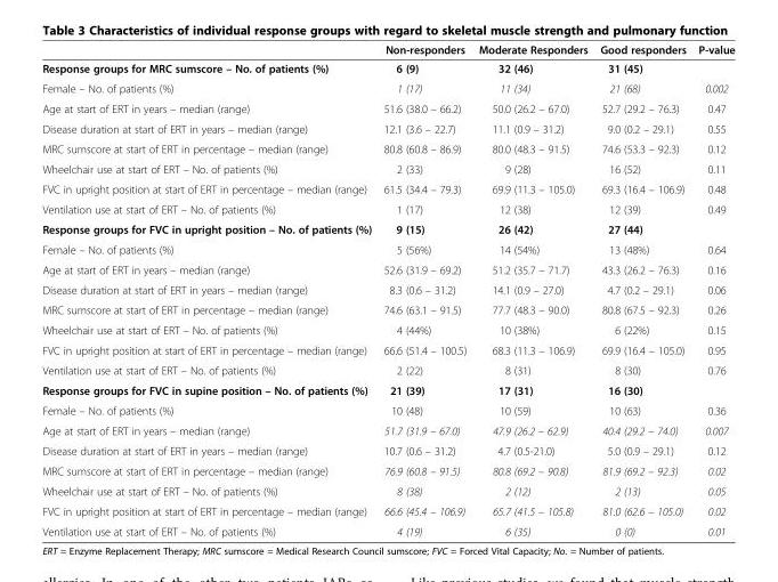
<table><thead><tr><td></td><td>Non-responders</td><td>Moderate Responders</td><td>Good responders</td><td>P-value</td></tr></thead><tbody><tr><td>Response groups for MRC sumscore – No. of patients (%)</td><td>6 (9)</td><td>32 (46)</td><td>31 (45)</td><td></td></tr><tr><td>Female – No. of patients (%)</td><td>1 (17)</td><td>11 (34)</td><td>21 (68)</td><td>0.002</td></tr><tr><td>Age at start of ERT in years – median (range)</td><td>51.6 (38.0 – 66.2)</td><td>50.0 (26.2 – 67.0)</td><td>52.7 (29.2 – 76.3)</td><td>0.47</td></tr><tr><td>Disease duration at start of ERT in years – median (range)</td><td>12.1 (3.6 – 22.7)</td><td>11.1 (0.9 – 31.2)</td><td>9.0 (0.2 – 29.1)</td><td>0.55</td></tr><tr><td>MRC sumscore at start of ERT in percentage – median (range)</td><td>80.8 (60.8 – 86.9)</td><td>80.0 (48.3 – 91.5)</td><td>74.6 (53.3 – 92.3)</td><td>0.12</td></tr><tr><td>Wheelchair use at start of ERT – No. of patients (%)</td><td>2 (33)</td><td>9 (28)</td><td>16 (52)</td><td>0.11</td></tr><tr><td>FVC in upright position at start of ERT in percentage – median (range)</td><td>61.5 (34.4 – 79.3)</td><td>69.9 (11.3 – 105.0)</td><td>69.3 (16.4 – 106.9)</td><td>0.48</td></tr><tr><td>Ventilation use at start of ERT – No. of patients (%)</td><td>1 (17)</td><td>12 (38)</td><td>12 (39)</td><td>0.49</td></tr><tr><td>Response groups for FVC in upright position – No. of patients (%)</td><td>9 (15)</td><td>26 (42)</td><td>27 (44)</td><td></td></tr><tr><td>Female – No. of patients (%)</td><td>5 (56%)</td><td>14 (54%)</td><td>13 (48%)</td><td>0.64</td></tr><tr><td>Age at start of ERT in years – median (range)</td><td>52.6 (31.9 – 69.2)</td><td>51.2 (35.7 – 71.7)</td><td>43.3 (26.2 – 76.3)</td><td>0.16</td></tr><tr><td>Disease duration at start of ERT in years – median (range)</td><td>8.3 (0.6 – 31.2)</td><td>14.1 (0.9 – 27.0)</td><td>4.7 (0.2 – 29.1)</td><td>0.06</td></tr><tr><td>MRC sumscore at start of ERT in percentage – median (range)</td><td>74.6 (63.1 – 91.5)</td><td>77.7 (48.3 – 90.0)</td><td>80.8 (67.5 – 92.3)</td><td>0.26</td></tr><tr><td>Wheelchair use at start of ERT – No. of patients (%)</td><td>4 (44%)</td><td>10 (38%)</td><td>6 (22%)</td><td>0.15</td></tr><tr><td>FVC in upright position at start of ERT in percentage – median (range)</td><td>66.6 (51.4 – 100.5)</td><td>68.3 (11.3 – 106.9)</td><td>69.9 (16.4 – 105.0)</td><td>0.95</td></tr><tr><td>Ventilation use at start of ERT – No. of patients (%)</td><td>2 (22)</td><td>8 (31)</td><td>8 (30)</td><td>0.76</td></tr><tr><td>Response groups for FVC in supine position – No. of patients (%)</td><td>21 (39)</td><td>17 (31)</td><td>16 (30)</td><td></td></tr><tr><td>Female – No. of patients (%)</td><td>10 (48)</td><td>10 (59)</td><td>10 (63)</td><td>0.36</td></tr><tr><td>Age at start of ERT in years – median (range)</td><td>51.7 (31.9 – 67.0)</td><td>47.9 (26.2 – 62.9)</td><td>40.4 (29.2 – 74.0)</td><td>0.007</td></tr><tr><td>Disease duration at start of ERT in years – median (range)</td><td>10.7 (0.6 – 31.2)</td><td>4.7 (0.5-21.0)</td><td>5.0 (0.9 – 29.1)</td><td>0.12</td></tr><tr><td>MRC sumscore at start of ERT in percentage – median (range)</td><td>76.9 (60.8 – 91.5)</td><td>80.8 (69.2 – 90.8)</td><td>81.9 (69.2 – 92.3)</td><td>0.02</td></tr><tr><td>Wheelchair use at start of ERT – No. of patients (%)</td><td>8 (38)</td><td>2 (12)</td><td>2 (13)</td><td>0.05</td></tr><tr><td>FVC in upright position at start of ERT in percentage – median (range)</td><td>66.6 (45.4 – 106.9)</td><td>65.7 (41.5 – 105.8)</td><td>81.0 (62.6 – 105.0)</td><td>0.02</td></tr><tr><td>Ventilation use at start of ERT – No. of patients (%)</td><td>4 (19)</td><td>6 (35)</td><td>0 (0)</td><td>0.01</td></tr></tbody></table>